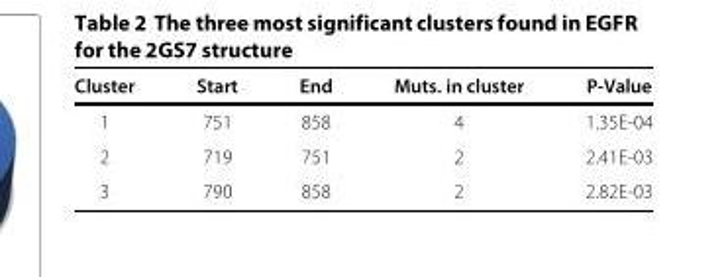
<table><thead><tr><td>Cluster</td><td>Start</td><td>End</td><td>Muts. in cluster</td><td>P-Value</td></tr></thead><tbody><tr><td>1</td><td>751</td><td>858</td><td>4</td><td>1.35E-04</td></tr><tr><td>2</td><td>719</td><td>751</td><td>2</td><td>2.41E-03</td></tr><tr><td>3</td><td>790</td><td>858</td><td>2</td><td>2.82E-03</td></tr></tbody></table>